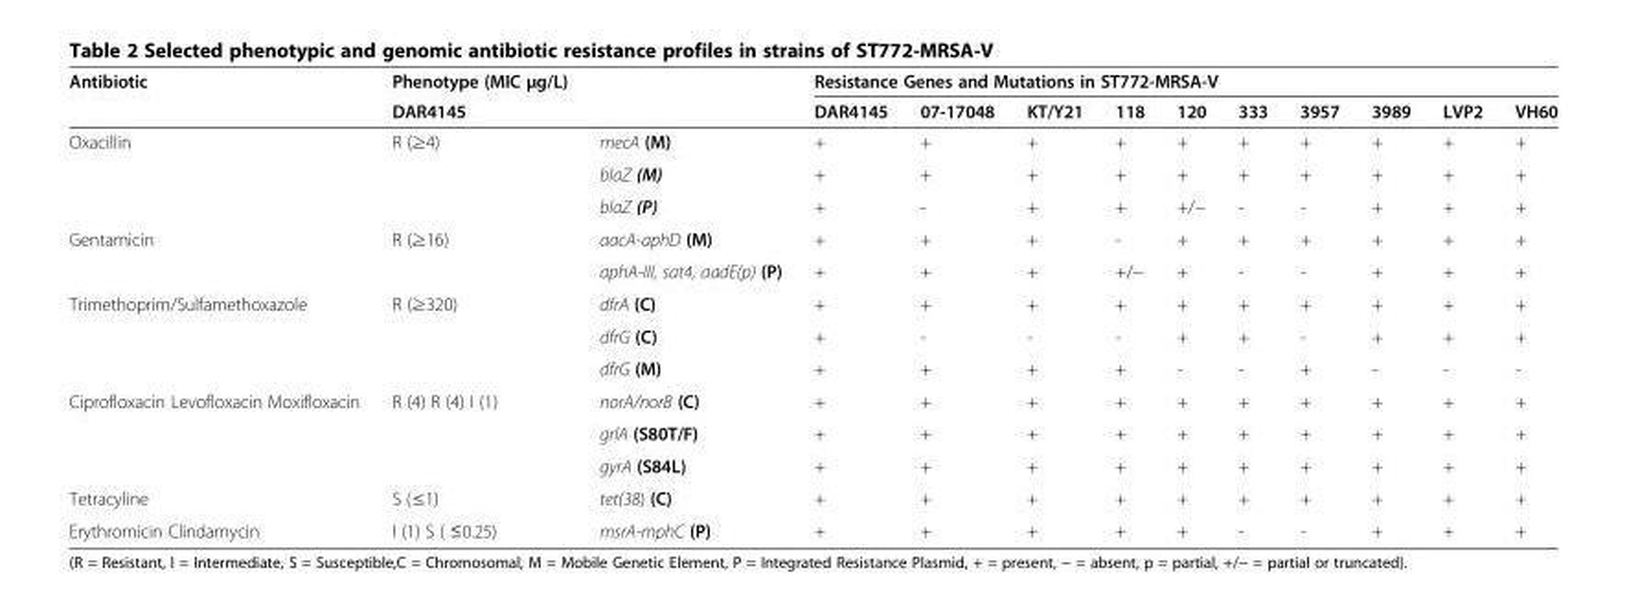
<table><thead><tr><td rowspan="2">Antibiotic</td><td rowspan="2">Phenotype (MIC μg/L) DAR4145</td><td rowspan="2"></td><td colspan="10">Resistance Genes and Mutations in ST772-MRSA-V</td></tr><tr><td>DAR4145</td><td>07-17048</td><td>KT/Y21</td><td>118</td><td>120</td><td>333</td><td>3957</td><td>3989</td><td>LVP2</td><td>VH60</td></tr></thead><tbody><tr><td rowspan="3">Oxacillin</td><td rowspan="3">R (≥4)</td><td>mecA (M)</td><td>+</td><td>+</td><td>+</td><td>+</td><td>+</td><td>+</td><td>+</td><td>+</td><td>+</td><td>+</td></tr><tr><td>blaZ (M)</td><td>+</td><td>+</td><td>+</td><td>+</td><td>+</td><td>+</td><td>+</td><td>+</td><td>+</td><td>+</td></tr><tr><td>blaZ (P)</td><td>+</td><td>-</td><td>+</td><td>+</td><td>+/−</td><td>-</td><td>-</td><td>+</td><td>+</td><td>+</td></tr><tr><td rowspan="2">Gentamicin</td><td rowspan="2">R (≥16)</td><td>aacA-aphD (M)</td><td>+</td><td>+</td><td>+</td><td>-</td><td>+</td><td>+</td><td>+</td><td>+</td><td>+</td><td>+</td></tr><tr><td>aphA-III, sat4, aadE(p) (P)</td><td>+</td><td>+</td><td>+</td><td>+/−</td><td>+</td><td>-</td><td>-</td><td>+</td><td>+</td><td>+</td></tr><tr><td rowspan="3">Trimethoprim/Sulfamethoxazole</td><td rowspan="3">R (≥320)</td><td>dfrA (C)</td><td>+</td><td>+</td><td>+</td><td>+</td><td>+</td><td>+</td><td>+</td><td>+</td><td>+</td><td>+</td></tr><tr><td>dfrG (C)</td><td>+</td><td>-</td><td>-</td><td>-</td><td>+</td><td>+</td><td>-</td><td>+</td><td>+</td><td>+</td></tr><tr><td>dfrG (M)</td><td>+</td><td>+</td><td>+</td><td>+</td><td>-</td><td>-</td><td>+</td><td>-</td><td>-</td><td>-</td></tr><tr><td rowspan="3">Ciprofloxacin Levofloxacin Moxifloxacin</td><td rowspan="3">R (4) R (4) I (1)</td><td>norA/norB (C)</td><td>+</td><td>+</td><td>+</td><td>+</td><td>+</td><td>+</td><td>+</td><td>+</td><td>+</td><td>+</td></tr><tr><td>grlA (S80T/F)</td><td>+</td><td>+</td><td>+</td><td>+</td><td>+</td><td>+</td><td>+</td><td>+</td><td>+</td><td>+</td></tr><tr><td>gyrA (S84L)</td><td>+</td><td>+</td><td>+</td><td>+</td><td>+</td><td>+</td><td>+</td><td>+</td><td>+</td><td>+</td></tr><tr><td>Tetracyline</td><td>S (≤1)</td><td>tet(38) (C)</td><td>+</td><td>+</td><td>+</td><td>+</td><td>+</td><td>+</td><td>+</td><td>+</td><td>+</td><td>+</td></tr><tr><td>Erythromicin Clindamycin</td><td>I (1) S ( ≤0.25)</td><td>msrA-mphC (P)</td><td>+</td><td>+</td><td>+</td><td>+</td><td>+</td><td>-</td><td>-</td><td>+</td><td>+</td><td>+</td></tr></tbody></table>